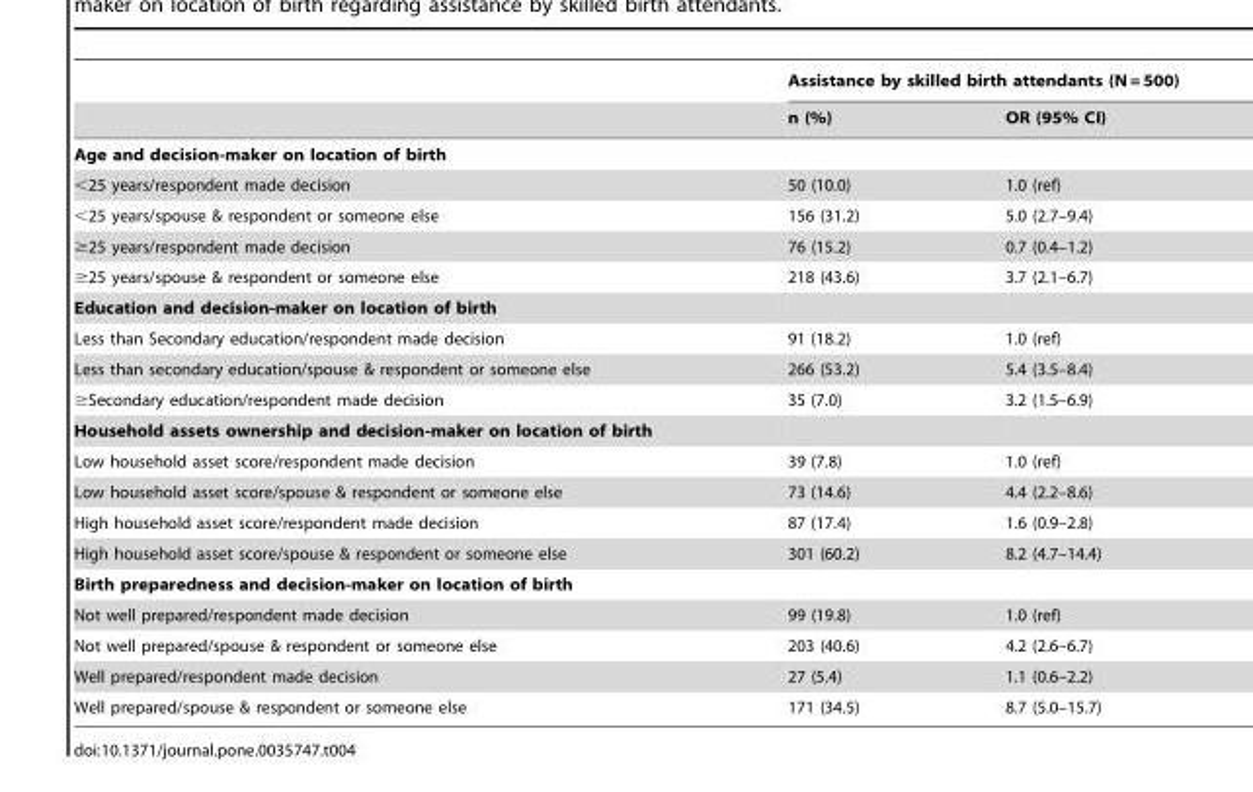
<table><thead><tr><td rowspan="2"></td><td colspan="2">Assistance by skilled birth attendants (N = 500)</td></tr><tr><td>n (%)</td><td>OR (95% CI)</td></tr></thead><tbody><tr><td colspan="3">Age and decision-maker on location of birth</td></tr><tr><td>&lt;25 years/respondent made decision</td><td>50 (10.0)</td><td>1.0 (ref)</td></tr><tr><td>&lt;25 years/spouse &amp; respondent or someone else</td><td>156 (31.2)</td><td>5.0 (2.7–9.4)</td></tr><tr><td>≥25 years/respondent made decision</td><td>76 (15.2)</td><td>0.7 (0.4–1.2)</td></tr><tr><td>≥25 years/spouse &amp; respondent or someone else</td><td>218 (43.6)</td><td>3.7 (2.1–6.7)</td></tr><tr><td colspan="3">Education and decision-maker on location of birth</td></tr><tr><td>Less than Secondary education/respondent made decision</td><td>91 (18.2)</td><td>1.0 (ref)</td></tr><tr><td>Less than secondary education/spouse &amp; respondent or someone else</td><td>266 (53.2)</td><td>5.4 (3.5–8.4)</td></tr><tr><td>≥Secondary education/respondent made decision</td><td>35 (7.0)</td><td>3.2 (1.5–6.9)</td></tr><tr><td colspan="3">Household assets ownership and decision-maker on location of birth</td></tr><tr><td>Low household asset score/respondent made decision</td><td>39 (7.8)</td><td>1.0 (ref)</td></tr><tr><td>Low household asset score/spouse &amp; respondent or someone else</td><td>73 (14.6)</td><td>4.4 (2.2–8.6)</td></tr><tr><td>High household asset score/respondent made decision</td><td>87 (17.4)</td><td>1.6 (0.9–2.8)</td></tr><tr><td>High household asset score/spouse &amp; respondent or someone else</td><td>301 (60.2)</td><td>8.2 (4.7–14.4)</td></tr><tr><td colspan="3">Birth preparedness and decision-maker on location of birth</td></tr><tr><td>Not well prepared/respondent made decision</td><td>99 (19.8)</td><td>1.0 (ref)</td></tr><tr><td>Not well prepared/spouse &amp; respondent or someone else</td><td>203 (40.6)</td><td>4.2 (2.6–6.7)</td></tr><tr><td>Well prepared/respondent made decision</td><td>27 (5.4)</td><td>1.1 (0.6–2.2)</td></tr><tr><td>Well prepared/spouse &amp; respondent or someone else</td><td>171 (34.5)</td><td>8.7 (5.0–15.7)</td></tr></tbody></table>